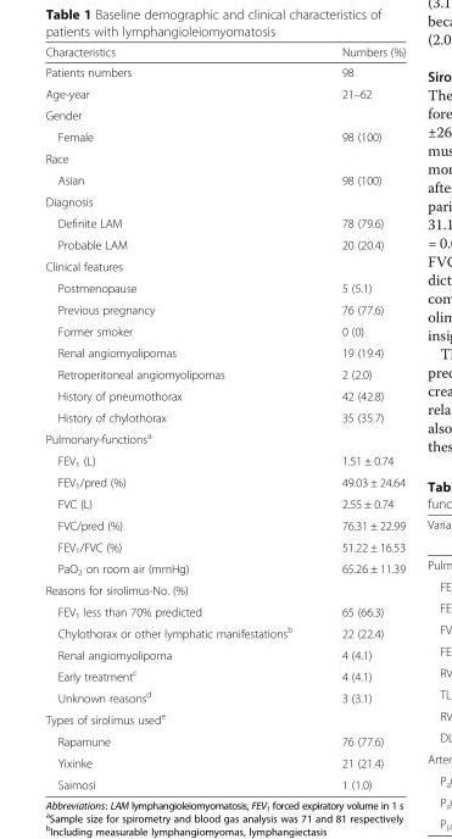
<table><thead><tr><td>Characteristics</td><td>Numbers (%)</td></tr></thead><tbody><tr><td>Patients numbers</td><td>98</td></tr><tr><td>Age-year</td><td>21–62</td></tr><tr><td colspan="2">Gender</td></tr><tr><td>Female</td><td>98 (100)</td></tr><tr><td colspan="2">Race</td></tr><tr><td>Asian</td><td>98 (100)</td></tr><tr><td colspan="2">Diagnosis</td></tr><tr><td>Definite LAM</td><td>78 (79.6)</td></tr><tr><td>Probable LAM</td><td>20 (20.4)</td></tr><tr><td colspan="2">Clinical features</td></tr><tr><td>Postmenopause</td><td>5 (5.1)</td></tr><tr><td>Previous pregnancy</td><td>76 (77.6)</td></tr><tr><td>Former smoker</td><td>0 (0)</td></tr><tr><td>Renal angiomyolipomas</td><td>19 (19.4)</td></tr><tr><td>Retroperitoneal angiomyolipomas</td><td>2 (2.0)</td></tr><tr><td>History of pneumothorax</td><td>42 (42.8)</td></tr><tr><td>History of chylothorax</td><td>35 (35.7)</td></tr><tr><td colspan="2">Pulmonary-functions<sup>a</sup></td></tr><tr><td>FEV<sub>1</sub> (L)</td><td>1.51 ± 0.74</td></tr><tr><td>FEV<sub>1</sub>/pred (%)</td><td>49.03 ± 24.64</td></tr><tr><td>FVC (L)</td><td>2.55 ± 0.74</td></tr><tr><td>FVC/pred (%)</td><td>76.31 ± 22.99</td></tr><tr><td>FEV<sub>1</sub>/FVC (%)</td><td>51.22 ± 16.53</td></tr><tr><td>PaO<sub>2</sub> on room air (mmHg)</td><td>65.26 ± 11.39</td></tr><tr><td colspan="2">Reasons for sirolimus-No. (%)</td></tr><tr><td>FEV<sub>1</sub> less than 70% predicted</td><td>65 (66.3)</td></tr><tr><td>Chylothorax or other lymphatic manifestations<sup>b</sup></td><td>22 (22.4)</td></tr><tr><td>Renal angiomyolipoma</td><td>4 (4.1)</td></tr><tr><td>Early treatment<sup>c</sup></td><td>4 (4.1)</td></tr><tr><td>Unknown reasons<sup>d</sup></td><td>3 (3.1)</td></tr><tr><td colspan="2">Types of sirolimus used<sup>e</sup></td></tr><tr><td>Rapamune</td><td>76 (77.6)</td></tr><tr><td>Yixinke</td><td>21 (21.4)</td></tr><tr><td>Saimosi</td><td>1 (1.0)</td></tr></tbody></table>